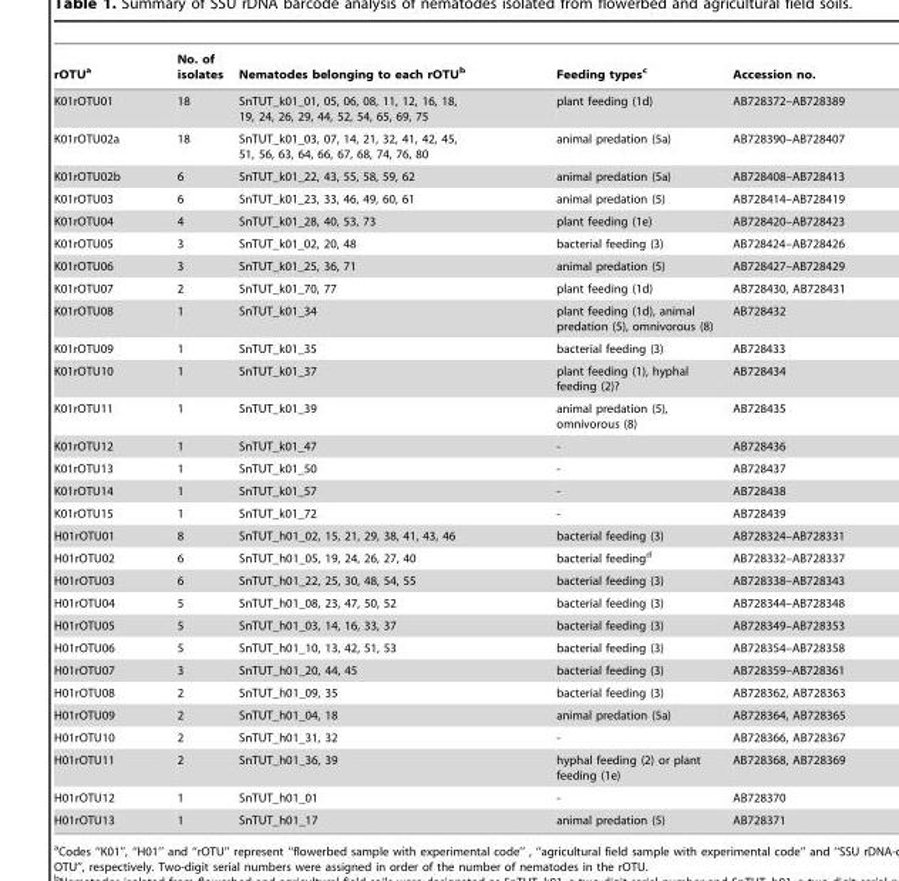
<table><thead><tr><td>rOTU<sup>a</sup></td><td>No. of isolates</td><td>Nematodes belonging to each rOTU<sup>b</sup></td><td>Feeding types<sup>c</sup></td><td>Accession no.</td></tr></thead><tbody><tr><td>K01rOTU01</td><td>18</td><td>SnTUT_k01_01, 05, 06, 08, 11, 12, 16, 18, 19, 24, 26, 29, 44, 52, 54, 65, 69, 75</td><td>plant feeding (1d)</td><td>AB728372–AB728389</td></tr><tr><td>K01rOTU02a</td><td>18</td><td>SnTUT_k01_03, 07, 14, 21, 32, 41, 42, 45, 51, 56, 63, 64, 66, 67, 68, 74, 76, 80</td><td>animal predation (5a)</td><td>AB728390–AB728407</td></tr><tr><td>K01rOTU02b</td><td>6</td><td>SnTUT_k01_22, 43, 55, 58, 59, 62</td><td>animal predation (5a)</td><td>AB728408–AB728413</td></tr><tr><td>K01rOTU03</td><td>6</td><td>SnTUT_k01_23, 33, 46, 49, 60, 61</td><td>animal predation (5)</td><td>AB728414–AB728419</td></tr><tr><td>K01rOTU04</td><td>4</td><td>SnTUT_k01_28, 40, 53, 73</td><td>plant feeding (1e)</td><td>AB728420–AB728423</td></tr><tr><td>K01rOTU05</td><td>3</td><td>SnTUT_k01_02, 20, 48</td><td>bacterial feeding (3)</td><td>AB728424–AB728426</td></tr><tr><td>K01rOTU06</td><td>3</td><td>SnTUT_k01_25, 36, 71</td><td>animal predation (5)</td><td>AB728427–AB728429</td></tr><tr><td>K01rOTU07</td><td>2</td><td>SnTUT_k01_70, 77</td><td>plant feeding (1d)</td><td>AB728430, AB728431</td></tr><tr><td>K01rOTU08</td><td>1</td><td>SnTUT_k01_34</td><td>plant feeding (1d), animal predation (5), omnivorous (8)</td><td>AB728432</td></tr><tr><td>K01rOTU09</td><td>1</td><td>SnTUT_k01_35</td><td>bacterial feeding (3)</td><td>AB728433</td></tr><tr><td>K01rOTU10</td><td>1</td><td>SnTUT_k01_37</td><td>plant feeding (1), hyphal feeding (2)?</td><td>AB728434</td></tr><tr><td>K01rOTU11</td><td>1</td><td>SnTUT_k01_39</td><td>animal predation (5), omnivorous (8)</td><td>AB728435</td></tr><tr><td>K01rOTU12</td><td>1</td><td>SnTUT_k01_47</td><td>-</td><td>AB728436</td></tr><tr><td>K01rOTU13</td><td>1</td><td>SnTUT_k01_50</td><td>-</td><td>AB728437</td></tr><tr><td>K01rOTU14</td><td>1</td><td>SnTUT_k01_57</td><td>-</td><td>AB728438</td></tr><tr><td>K01rOTU15</td><td>1</td><td>SnTUT_k01_72</td><td>-</td><td>AB728439</td></tr><tr><td>H01rOTU01</td><td>8</td><td>SnTUT_h01_02, 15, 21, 29, 38, 41, 43, 46</td><td>bacterial feeding (3)</td><td>AB728324–AB728331</td></tr><tr><td>H01rOTU02</td><td>6</td><td>SnTUT_h01_05, 19, 24, 26, 27, 40</td><td>bacterial feeding<sup>d</sup></td><td>AB728332–AB728337</td></tr><tr><td>H01rOTU03</td><td>6</td><td>SnTUT_h01_22, 25, 30, 48, 54, 55</td><td>bacterial feeding (3)</td><td>AB728338–AB728343</td></tr><tr><td>H01rOTU04</td><td>5</td><td>SnTUT_h01_08, 23, 47, 50, 52</td><td>bacterial feeding (3)</td><td>AB728344–AB728348</td></tr><tr><td>H01rOTU05</td><td>5</td><td>SnTUT_h01_03, 14, 16, 33, 37</td><td>bacterial feeding (3)</td><td>AB728349–AB728353</td></tr><tr><td>H01rOTU06</td><td>5</td><td>SnTUT_h01_10, 13, 42, 51, 53</td><td>bacterial feeding (3)</td><td>AB728354–AB728358</td></tr><tr><td>H01rOTU07</td><td>3</td><td>SnTUT_h01_20, 44, 45</td><td>bacterial feeding (3)</td><td>AB728359–AB728361</td></tr><tr><td>H01rOTU08</td><td>2</td><td>SnTUT_h01_09, 35</td><td>bacterial feeding (3)</td><td>AB728362, AB728363</td></tr><tr><td>H01rOTU09</td><td>2</td><td>SnTUT_h01_04, 18</td><td>animal predation (5a)</td><td>AB728364, AB728365</td></tr><tr><td>H01rOTU10</td><td>2</td><td>SnTUT_h01_31, 32</td><td>-</td><td>AB728366, AB728367</td></tr><tr><td>H01rOTU11</td><td>2</td><td>SnTUT_h01_36, 39</td><td>hyphal feeding (2) or plant feeding (1e)</td><td>AB728368, AB728369</td></tr><tr><td>H01rOTU12</td><td>1</td><td>SnTUT_h01_01</td><td>-</td><td>AB728370</td></tr><tr><td>H01rOTU13</td><td>1</td><td>SnTUT_h01_17</td><td>animal predation (5)</td><td>AB728371</td></tr></tbody></table>